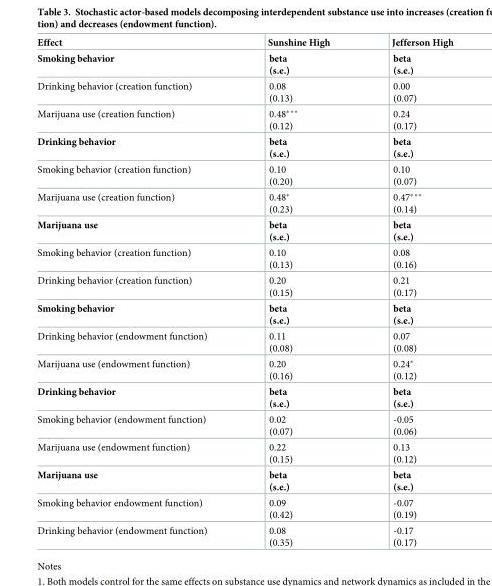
<table><thead><tr><td>Effect</td><td>Sunshine High</td><td>Jefferson High</td></tr></thead><tbody><tr><td>Smoking behavior</td><td>beta (s.e.)</td><td>beta (s.e.)</td></tr><tr><td>Drinking behavior (creation function)</td><td>0.08 (0.13)</td><td>0.00 (0.07)</td></tr><tr><td>Marijuana use (creation function)</td><td>0.48*** (0.12)</td><td>0.24 (0.17)</td></tr><tr><td>Drinking behavior</td><td>beta (s.e.)</td><td>beta (s.e.)</td></tr><tr><td>Smoking behavior (creation function)</td><td>0.10 (0.20)</td><td>0.10 (0.07)</td></tr><tr><td>Marijuana use (creation function)</td><td>0.48* (0.23)</td><td>0.47*** (0.14)</td></tr><tr><td>Marijuana use</td><td>beta (s.e.)</td><td>beta (s.e.)</td></tr><tr><td>Smoking behavior (creation function)</td><td>0.10 (0.13)</td><td>0.08 (0.16)</td></tr><tr><td>Drinking behavior (creation function)</td><td>0.20 (0.15)</td><td>0.21 (0.17)</td></tr><tr><td>Smoking behavior</td><td>beta (s.e.)</td><td>beta (s.e.)</td></tr><tr><td>Drinking behavior (endowment function)</td><td>0.11 (0.08)</td><td>0.07 (0.08)</td></tr><tr><td>Marijuana use (endowment function)</td><td>0.20 (0.16)</td><td>0.24* (0.12)</td></tr><tr><td>Drinking behavior</td><td>beta (s.e.)</td><td>beta (s.e.)</td></tr><tr><td>Smoking behavior (endowment function)</td><td>0.02 (0.07)</td><td>-0.05 (0.06)</td></tr><tr><td>Marijuana use (endowment function)</td><td>0.22 (0.15)</td><td>0.13 (0.12)</td></tr><tr><td>Marijuana use</td><td>beta (s.e.)</td><td>beta (s.e.)</td></tr><tr><td>Smoking behavior endowment function)</td><td>0.09 (0.42)</td><td>-0.07 (0.19)</td></tr><tr><td>Drinking behavior (endowment function)</td><td>0.08 (0.35)</td><td>-0.17 (0.17)</td></tr></tbody></table>